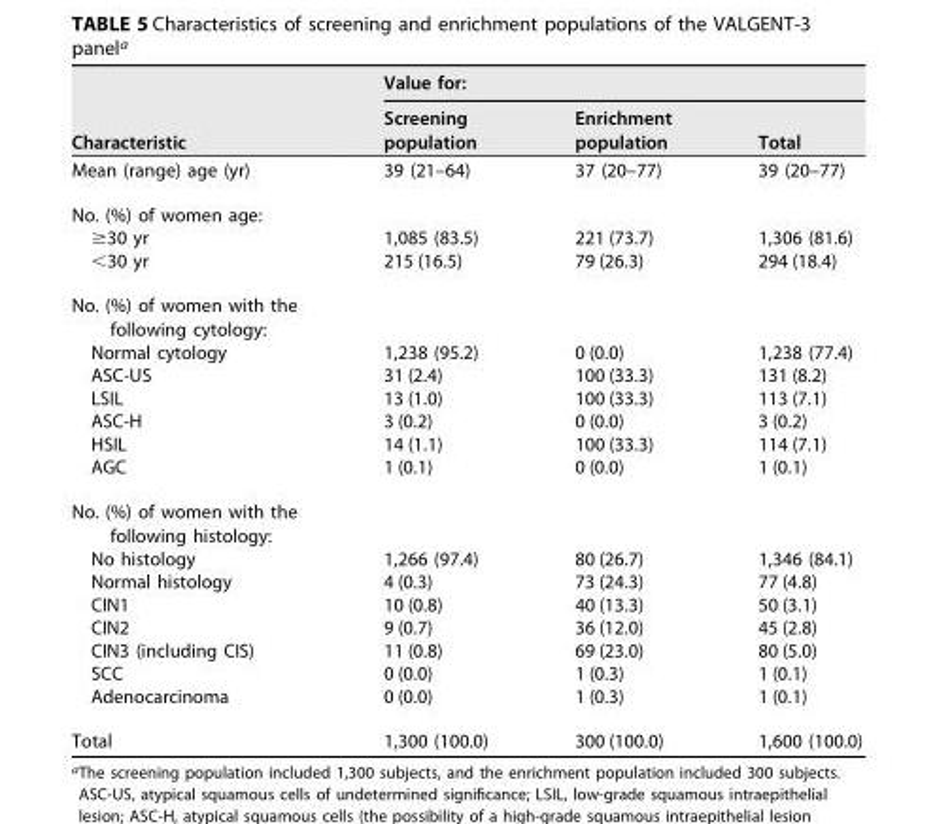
<table><thead><tr><td rowspan="2">Characteristic</td><td colspan="3">Value for:</td></tr><tr><td>Screening population</td><td>Enrichment population</td><td>Total</td></tr></thead><tbody><tr><td>Mean (range) age (yr)</td><td>39 (21–64)</td><td>37 (20–77)</td><td>39 (20–77)</td></tr><tr><td colspan="4">No. (%) of women age:</td></tr><tr><td>≥30 yr</td><td>1,085 (83.5)</td><td>221 (73.7)</td><td>1,306 (81.6)</td></tr><tr><td>&lt;30 yr</td><td>215 (16.5)</td><td>79 (26.3)</td><td>294 (18.4)</td></tr><tr><td colspan="4">No. (%) of women with the following cytology:</td></tr><tr><td>Normal cytology</td><td>1,238 (95.2)</td><td>0 (0.0)</td><td>1,238 (77.4)</td></tr><tr><td>ASC-US</td><td>31 (2.4)</td><td>100 (33.3)</td><td>131 (8.2)</td></tr><tr><td>LSIL</td><td>13 (1.0)</td><td>100 (33.3)</td><td>113 (7.1)</td></tr><tr><td>ASC-H</td><td>3 (0.2)</td><td>0 (0.0)</td><td>3 (0.2)</td></tr><tr><td>HSIL</td><td>14 (1.1)</td><td>100 (33.3)</td><td>114 (7.1)</td></tr><tr><td>AGC</td><td>1 (0.1)</td><td>0 (0.0)</td><td>1 (0.1)</td></tr><tr><td colspan="4">No. (%) of women with the following histology:</td></tr><tr><td>No histology</td><td>1,266 (97.4)</td><td>80 (26.7)</td><td>1,346 (84.1)</td></tr><tr><td>Normal histology</td><td>4 (0.3)</td><td>73 (24.3)</td><td>77 (4.8)</td></tr><tr><td>CIN1</td><td>10 (0.8)</td><td>40 (13.3)</td><td>50 (3.1)</td></tr><tr><td>CIN2</td><td>9 (0.7)</td><td>36 (12.0)</td><td>45 (2.8)</td></tr><tr><td>CIN3 (including CIS)</td><td>11 (0.8)</td><td>69 (23.0)</td><td>80 (5.0)</td></tr><tr><td>SCC</td><td>0 (0.0)</td><td>1 (0.3)</td><td>1 (0.1)</td></tr><tr><td>Adenocarcinoma</td><td>0 (0.0)</td><td>1 (0.3)</td><td>1 (0.1)</td></tr><tr><td>Total</td><td>1,300 (100.0)</td><td>300 (100.0)</td><td>1,600 (100.0)</td></tr></tbody></table>